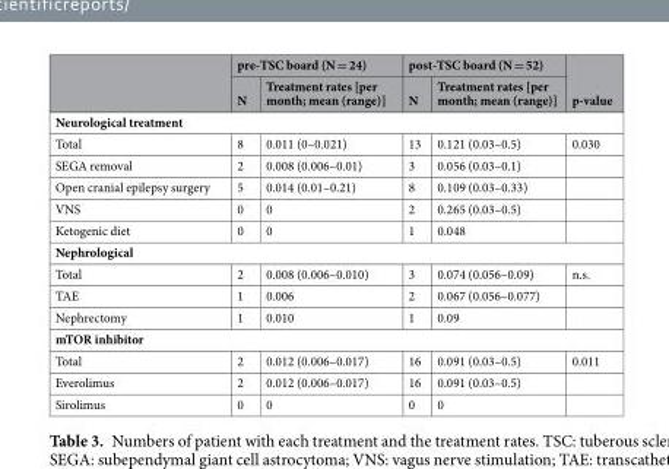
<table><thead><tr><td rowspan="2"></td><td colspan="2">pre-TSC board (N = 24)</td><td colspan="2">post-TSC board (N = 52)</td><td rowspan="2">p-value</td></tr><tr><td>N</td><td>Treatment rates [per month; mean (range)]</td><td>N</td><td>Treatment rates [per month; mean (range)]</td></tr></thead><tbody><tr><td colspan="6">Neurological treatment</td></tr><tr><td>Total</td><td>8</td><td>0.011 (0–0.021)</td><td>13</td><td>0.121 (0.03–0.5)</td><td>0.030</td></tr><tr><td>SEGA removal</td><td>2</td><td>0.008 (0.006–0.01)</td><td>3</td><td>0.056 (0.03–0.1)</td><td></td></tr><tr><td>Open cranial epilepsy surgery</td><td>5</td><td>0.014 (0.01–0.21)</td><td>8</td><td>0.109 (0.03–0.33)</td><td></td></tr><tr><td>VNS</td><td>0</td><td>0</td><td>2</td><td>0.265 (0.03–0.5)</td><td></td></tr><tr><td>Ketogenic diet</td><td>0</td><td>0</td><td>1</td><td>0.048</td><td></td></tr><tr><td colspan="6">Nephrological</td></tr><tr><td>Total</td><td>2</td><td>0.008 (0.006–0.010)</td><td>3</td><td>0.074 (0.056–0.09)</td><td>n.s.</td></tr><tr><td>TAE</td><td>1</td><td>0.006</td><td>2</td><td>0.067 (0.056–0.077)</td><td></td></tr><tr><td>Nephrectomy</td><td>1</td><td>0.010</td><td>1</td><td>0.09</td><td></td></tr><tr><td colspan="6">mTOR inhibitor</td></tr><tr><td>Total</td><td>2</td><td>0.012 (0.006–0.017)</td><td>16</td><td>0.091 (0.03–0.5)</td><td>0.011</td></tr><tr><td>Everolimus</td><td>2</td><td>0.012 (0.006–0.017)</td><td>16</td><td>0.091 (0.03–0.5)</td><td></td></tr><tr><td>Sirolimus</td><td>0</td><td>0</td><td>0</td><td>0</td><td></td></tr></tbody></table>